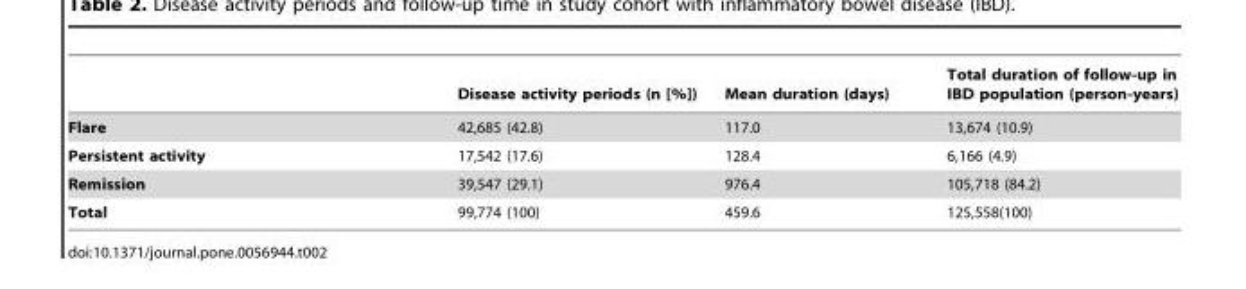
<table><thead><tr><td></td><td>Disease activity periods (n [%])</td><td>Mean duration (days)</td><td>Total duration of follow-up in IBD population (person-years)</td></tr></thead><tbody><tr><td>Flare</td><td>42,685 (42.8)</td><td>117.0</td><td>13,674 (10.9)</td></tr><tr><td>Persistent activity</td><td>17,542 (17.6)</td><td>128.4</td><td>6,166 (4.9)</td></tr><tr><td>Remission</td><td>39,547 (29.1)</td><td>976.4</td><td>105,718 (84.2)</td></tr><tr><td>Total</td><td>99,774 (100)</td><td>459.6</td><td>125,558(100)</td></tr></tbody></table>